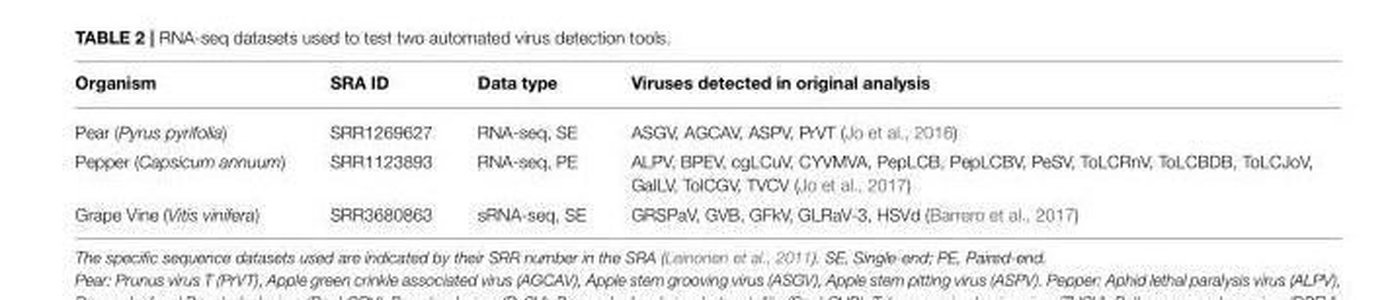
<table><thead><tr><td>Organism</td><td>SRA ID</td><td>Data type</td><td>Viruses detected in original analysis</td></tr></thead><tbody><tr><td>Pear (Pyrus pyrifolia)</td><td>SRR1269627</td><td>RNA-seq, SE</td><td>ASGV, AGCAV, ASPV, PrVT (Jo et al., 2016)</td></tr><tr><td>Pepper (Capsicum annuum)</td><td>SRR1123893</td><td>RNA-seq, PE</td><td>ALPV, BPEV, cgLCuV, CYVMVA, PepLCB, PepLCBV, PeSV, ToLCRnV, ToLCBDB, ToLCJoV, GaILV, TolCGV, TVCV (Jo et al., 2017)</td></tr><tr><td>Grape Vine (Vitis vinifera)</td><td>SRR3680863</td><td>sRNA-seq, SE</td><td>GRSPaV, GVB, GFkV, GLRaV-3, HSVd (Barrero et al., 2017)</td></tr></tbody></table>